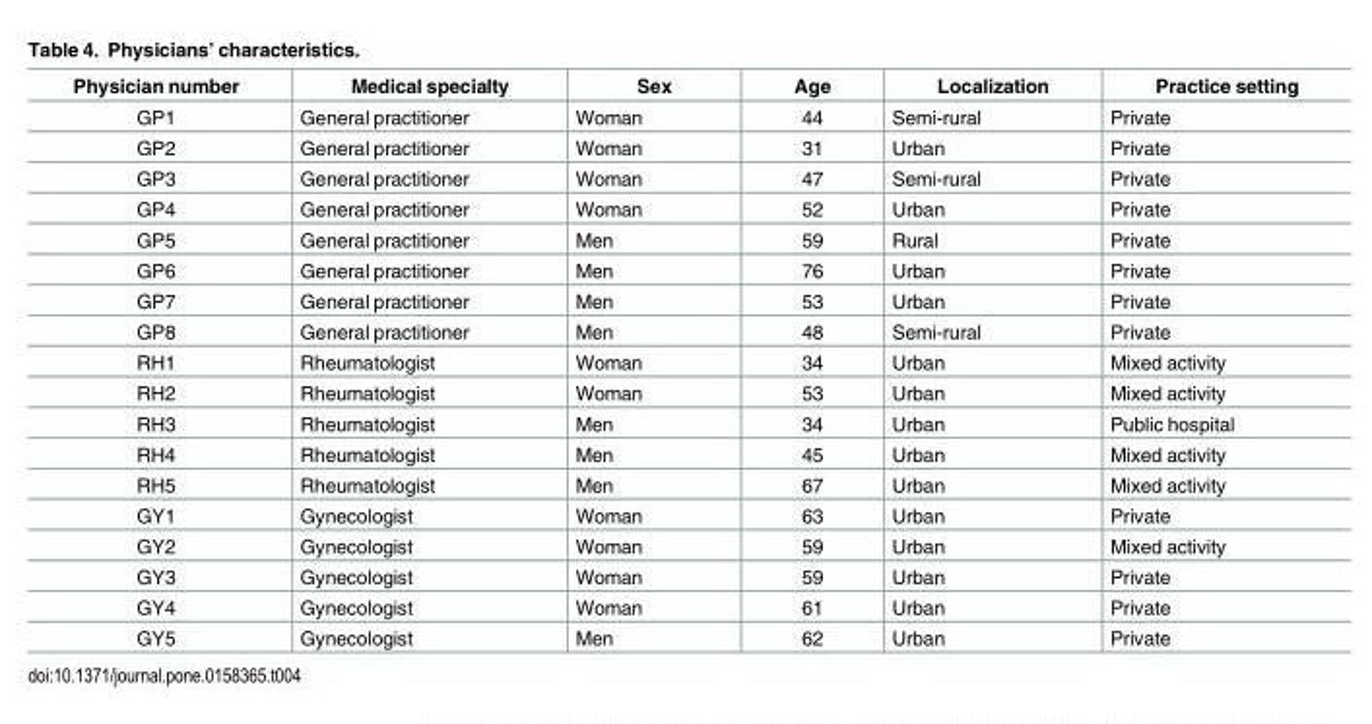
<table><thead><tr><td>Physician number</td><td>Medical specialty</td><td>Sex</td><td>Age</td><td>Localization</td><td>Practice setting</td></tr></thead><tbody><tr><td>GP1</td><td>General practitioner</td><td>Woman</td><td>44</td><td>Semi-rural</td><td>Private</td></tr><tr><td>GP2</td><td>General practitioner</td><td>Woman</td><td>31</td><td>Urban</td><td>Private</td></tr><tr><td>GP3</td><td>General practitioner</td><td>Woman</td><td>47</td><td>Semi-rural</td><td>Private</td></tr><tr><td>GP4</td><td>General practitioner</td><td>Woman</td><td>52</td><td>Urban</td><td>Private</td></tr><tr><td>GP5</td><td>General practitioner</td><td>Men</td><td>59</td><td>Rural</td><td>Private</td></tr><tr><td>GP6</td><td>General practitioner</td><td>Men</td><td>76</td><td>Urban</td><td>Private</td></tr><tr><td>GP7</td><td>General practitioner</td><td>Men</td><td>53</td><td>Urban</td><td>Private</td></tr><tr><td>GP8</td><td>General practitioner</td><td>Men</td><td>48</td><td>Semi-rural</td><td>Private</td></tr><tr><td>RH1</td><td>Rheumatologist</td><td>Woman</td><td>34</td><td>Urban</td><td>Mixed activity</td></tr><tr><td>RH2</td><td>Rheumatologist</td><td>Woman</td><td>53</td><td>Urban</td><td>Mixed activity</td></tr><tr><td>RH3</td><td>Rheumatologist</td><td>Men</td><td>34</td><td>Urban</td><td>Public hospital</td></tr><tr><td>RH4</td><td>Rheumatologist</td><td>Men</td><td>45</td><td>Urban</td><td>Mixed activity</td></tr><tr><td>RH5</td><td>Rheumatologist</td><td>Men</td><td>67</td><td>Urban</td><td>Mixed activity</td></tr><tr><td>GY1</td><td>Gynecologist</td><td>Woman</td><td>63</td><td>Urban</td><td>Private</td></tr><tr><td>GY2</td><td>Gynecologist</td><td>Woman</td><td>59</td><td>Urban</td><td>Mixed activity</td></tr><tr><td>GY3</td><td>Gynecologist</td><td>Woman</td><td>59</td><td>Urban</td><td>Private</td></tr><tr><td>GY4</td><td>Gynecologist</td><td>Woman</td><td>61</td><td>Urban</td><td>Private</td></tr><tr><td>GY5</td><td>Gynecologist</td><td>Men</td><td>62</td><td>Urban</td><td>Private</td></tr></tbody></table>